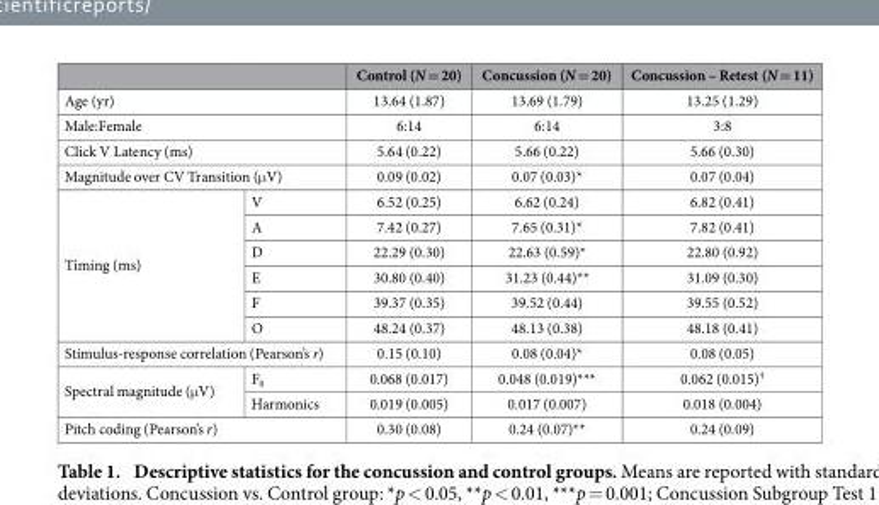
<table><thead><tr><td></td><td></td><td>Control (N = 20)</td><td>Concussion (N = 20)</td><td>Concussion – Retest (N = 11)</td></tr></thead><tbody><tr><td colspan="2">Age (yr)</td><td>13.64 (1.87)</td><td>13.69 (1.79)</td><td>13.25 (1.29)</td></tr><tr><td colspan="2">Male:Female</td><td>6:14</td><td>6:14</td><td>3:8</td></tr><tr><td colspan="2">Click V Latency (ms)</td><td>5.64 (0.22)</td><td>5.66 (0.22)</td><td>5.66 (0.30)</td></tr><tr><td colspan="2">Magnitude over CV Transition (μ V)</td><td>0.09 (0.02)</td><td>0.07 (0.03)*</td><td>0.07 (0.04)</td></tr><tr><td rowspan="6">Timing (ms)</td><td>V</td><td>6.52 (0.25)</td><td>6.62 (0.24)</td><td>6.82 (0.41)</td></tr><tr><td>A</td><td>7.42 (0.27)</td><td>7.65 (0.31)*</td><td>7.82 (0.41)</td></tr><tr><td>D</td><td>22.29 (0.30)</td><td>22.63 (0.59)*</td><td>22.80 (0.92)</td></tr><tr><td>E</td><td>30.80 (0.40)</td><td>31.23 (0.44)**</td><td>31.09 (0.30)</td></tr><tr><td>F</td><td>39.37 (0.35)</td><td>39.52 (0.44)</td><td>39.55 (0.52)</td></tr><tr><td>O</td><td>48.24 (0.37)</td><td>48.13 (0.38)</td><td>48.18 (0.41)</td></tr><tr><td colspan="2">Stimulus-response correlation (Pearson’s r)</td><td>0.15 (0.10)</td><td>0.08 (0.04)*</td><td>0.08 (0.05)</td></tr><tr><td rowspan="2">Spectral magnitude (μ V)</td><td>F<sub>0</sub></td><td>0.068 (0.017)</td><td>0.048 (0.019)***</td><td>0.062 (0.015)<sup>†</sup></td></tr><tr><td>Harmonics</td><td>0.019 (0.005)</td><td>0.017 (0.007)</td><td>0.018 (0.004)</td></tr><tr><td colspan="2">Pitch coding (Pearson’s r)</td><td>0.30 (0.08)</td><td>0.24 (0.07)**</td><td>0.24 (0.09)</td></tr></tbody></table>